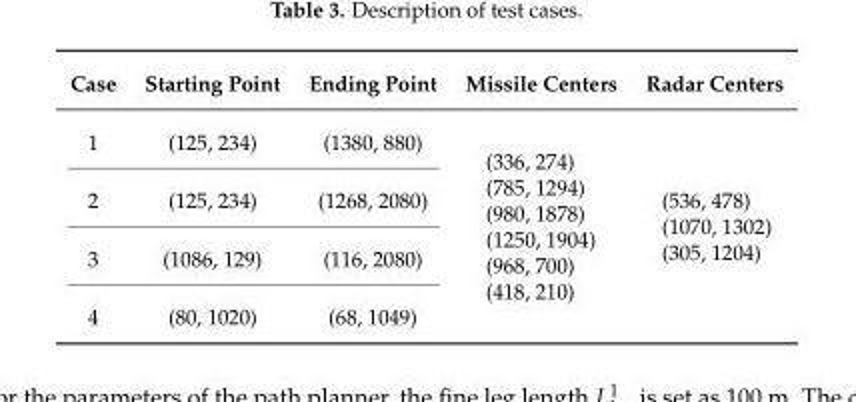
<table><thead><tr><td>Case</td><td>Starting Point</td><td>Ending Point</td><td>Missile Centers</td><td>Radar Centers</td></tr></thead><tbody><tr><td>1</td><td>(125, 234)</td><td>(1380, 880)</td><td rowspan="4">(336, 274) (785, 1294) (980, 1878) (1250, 1904) (968, 700) (418, 210)</td><td rowspan="4">(536, 478) (1070, 1302) (305, 1204)</td></tr><tr><td>2</td><td>(125, 234)</td><td>(1268, 2080)</td></tr><tr><td>3</td><td>(1086, 129)</td><td>(116, 2080)</td></tr><tr><td>4</td><td>(80, 1020)</td><td>(68, 1049)</td></tr></tbody></table>